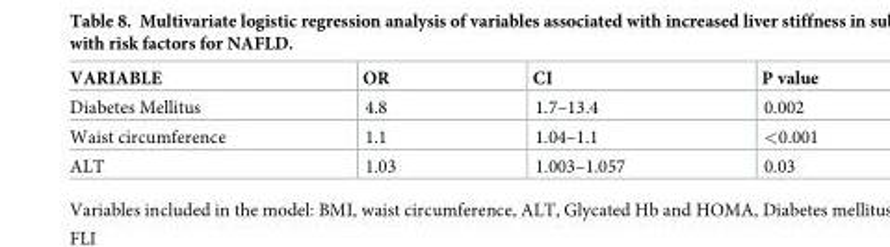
<table><thead><tr><td>VARIABLE</td><td>OR</td><td>CI</td><td>P value</td></tr></thead><tbody><tr><td>Diabetes Mellitus</td><td>4.8</td><td>1.7–13.4</td><td>0.002</td></tr><tr><td>Waist circumference</td><td>1.1</td><td>1.04–1.1</td><td>&lt;0.001</td></tr><tr><td>ALT</td><td>1.03</td><td>1.003–1.057</td><td>0.03</td></tr></tbody></table>